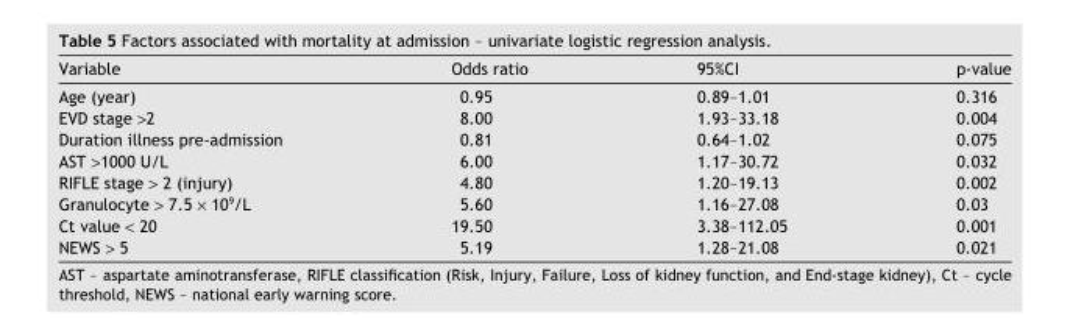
<table><thead><tr><td>Variable</td><td>Odds ratio</td><td>95%CI</td><td>p-value</td></tr></thead><tbody><tr><td>Age (year)</td><td>0.95</td><td>0.89–1.01</td><td>0.316</td></tr><tr><td>EVD stage &gt;2</td><td>8.00</td><td>1.93–33.18</td><td>0.004</td></tr><tr><td>Duration illness pre-admission</td><td>0.81</td><td>0.64–1.02</td><td>0.075</td></tr><tr><td>AST &gt;1000 U/L</td><td>6.00</td><td>1.17–30.72</td><td>0.032</td></tr><tr><td>RIFLE stage &gt; 2 (injury)</td><td>4.80</td><td>1.20–19.13</td><td>0.002</td></tr><tr><td>Granulocyte &gt; 7.5 × 10<sup>9</sup>/L</td><td>5.60</td><td>1.16–27.08</td><td>0.03</td></tr><tr><td>Ct value &lt; 20</td><td>19.50</td><td>3.38–112.05</td><td>0.001</td></tr><tr><td>NEWS &gt; 5</td><td>5.19</td><td>1.28–21.08</td><td>0.021</td></tr></tbody></table>